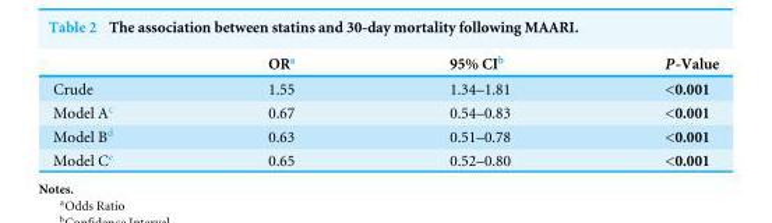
<table><thead><tr><td></td><td>OR<sup>a</sup></td><td>95% CI<sup>b</sup></td><td>P-Value</td></tr></thead><tbody><tr><td>Crude</td><td>1.55</td><td>1.34–1.81</td><td>&lt;0.001</td></tr><tr><td>Model A<sup>c</sup></td><td>0.67</td><td>0.54–0.83</td><td>&lt;0.001</td></tr><tr><td>Model B<sup>d</sup></td><td>0.63</td><td>0.51–0.78</td><td>&lt;0.001</td></tr><tr><td>Model C<sup>e</sup></td><td>0.65</td><td>0.52–0.80</td><td>&lt;0.001</td></tr></tbody></table>